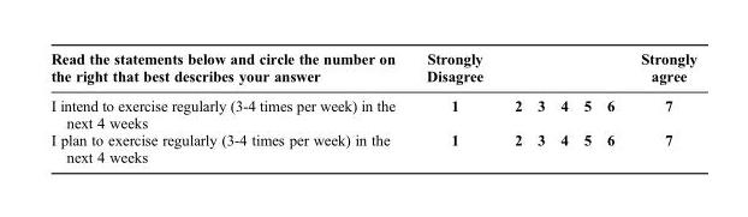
<table><thead><tr><td>Read the statements below and circle the number on the right that best describes your answer</td><td>Strongly Disagree</td><td></td><td></td><td></td><td></td><td></td><td>Strongly agree</td></tr></thead><tbody><tr><td>I intend to exercise regularly (3-4 times per week) in the next 4 weeks</td><td>1</td><td>2</td><td>3</td><td>4</td><td>5</td><td>6</td><td>7</td></tr><tr><td>I plan to exercise regularly (3-4 times per week) in the next 4 weeks</td><td>1</td><td>2</td><td>3</td><td>4</td><td>5</td><td>6</td><td>7</td></tr></tbody></table>